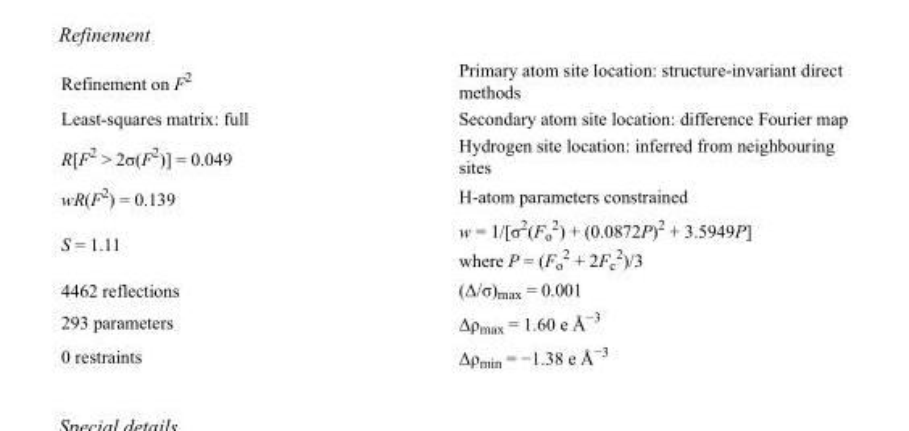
<table><tbody><tr><td>Refinement on F<sup>2</sup></td><td>Primary atom site location: structure-invariant direct methods</td></tr><tr><td>Least-squares matrix: full</td><td>Secondary atom site location: difference Fourier map</td></tr><tr><td>R[F<sup>2</sup> &gt; 2σ(F<sup>2</sup>)] = 0.049</td><td>Hydrogen site location: inferred from neighbouring sites</td></tr><tr><td>wR(F<sup>2</sup>) = 0.139</td><td>H-atom parameters constrained</td></tr><tr><td>S = 1.11</td><td>w = 1/[σ<sup>2</sup>(F<sub>o</sub> <sup>2</sup>) + (0.0872P)<sup>2</sup> + 3.5949P] where P = (F<sub>o</sub> <sup>2</sup> + 2F<sub>c</sub> <sup>2</sup>)/3</td></tr><tr><td>4462 reflections</td><td>(Δ/σ)<sub>max</sub> = 0.001</td></tr><tr><td>293 parameters</td><td>Δρ<sub>max</sub> = 1.60 e Å<sup>−3</sup></td></tr><tr><td>0 restraints</td><td>Δρ<sub>min</sub> = −1.38 e Å<sup>−3</sup></td></tr></tbody></table>